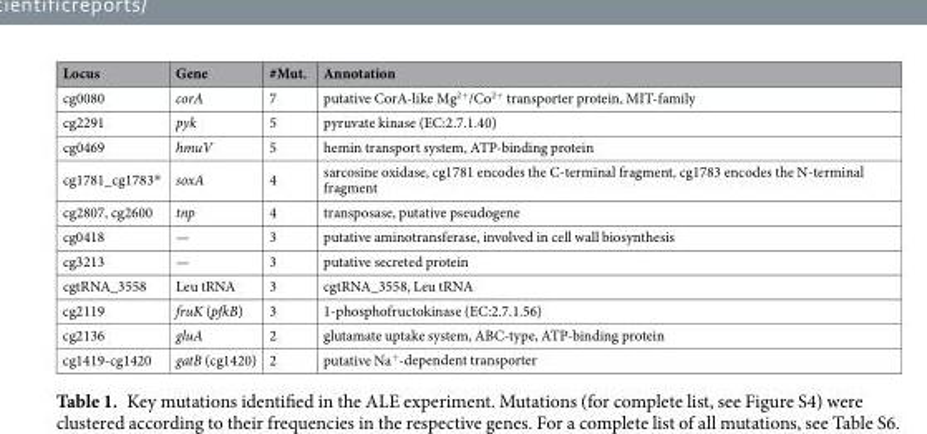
<table><thead><tr><td>Locus</td><td>Gene</td><td>#Mut.</td><td>Annotation</td></tr></thead><tbody><tr><td>cg0080</td><td>corA</td><td>7</td><td>putative CorA-like Mg<sup>2+</sup>/Co<sup>2+</sup> transporter protein, MIT-family</td></tr><tr><td>cg2291</td><td>pyk</td><td>5</td><td>pyruvate kinase (EC:2.7.1.40)</td></tr><tr><td>cg0469</td><td>hmuV</td><td>5</td><td>hemin transport system, ATP-binding protein</td></tr><tr><td>cg1781_cg1783*</td><td>soxA</td><td>4</td><td>sarcosine oxidase, cg1781 encodes the C-terminal fragment, cg1783 encodes the N-terminal fragment</td></tr><tr><td>cg2807, cg2600</td><td>tnp</td><td>4</td><td>transposase, putative pseudogene</td></tr><tr><td>cg0418</td><td>—</td><td>3</td><td>putative aminotransferase, involved in cell wall biosynthesis</td></tr><tr><td>cg3213</td><td>—</td><td>3</td><td>putative secreted protein</td></tr><tr><td>cgtRNA_3558</td><td>Leu tRNA</td><td>3</td><td>cgtRNA_3558, Leu tRNA</td></tr><tr><td>cg2119</td><td>fruK (pfkB)</td><td>3</td><td>1-phosphofructokinase (EC:2.7.1.56)</td></tr><tr><td>cg2136</td><td>gluA</td><td>2</td><td>glutamate uptake system, ABC-type, ATP-binding protein</td></tr><tr><td>cg1419-cg1420</td><td>gatB (cg1420)</td><td>2</td><td>putative Na<sup>+</sup>-dependent transporter</td></tr></tbody></table>